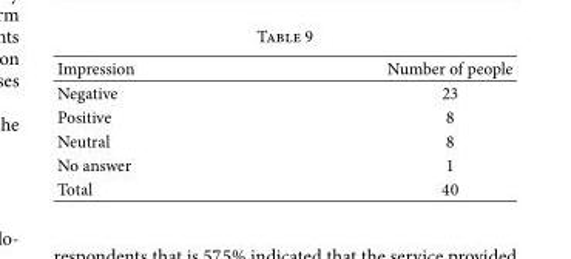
<table><thead><tr><td>Impression</td><td>Number of people</td></tr></thead><tbody><tr><td>Negative</td><td>23</td></tr><tr><td>Positive</td><td>8</td></tr><tr><td>Neutral</td><td>8</td></tr><tr><td>No answer</td><td>1</td></tr><tr><td>Total</td><td>40</td></tr></tbody></table>